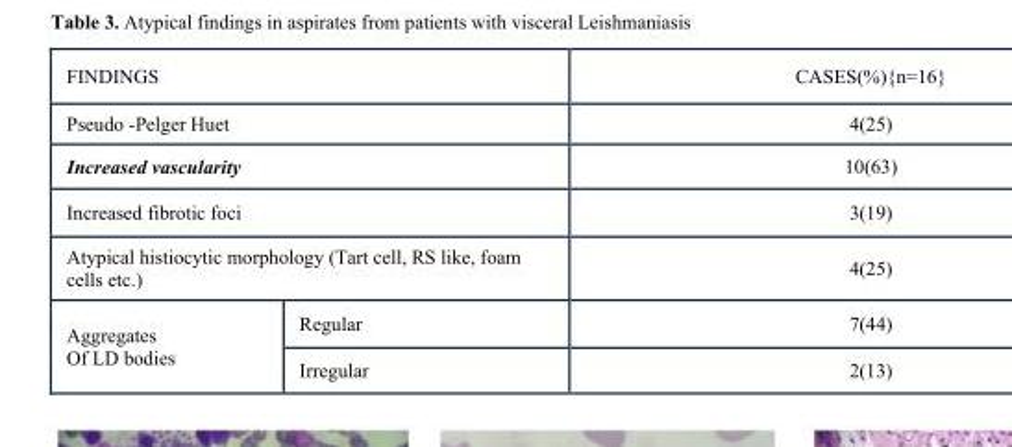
<table><thead><tr><td colspan="2">FINDINGS</td><td>CASES(%){n=16}</td></tr></thead><tbody><tr><td colspan="2">Pseudo -Pelger Huet</td><td>4(25)</td></tr><tr><td colspan="2">Increased vascularity</td><td>10(63)</td></tr><tr><td colspan="2">Increased fibrotic foci</td><td>3(19)</td></tr><tr><td colspan="2">Atypical histiocytic morphology (Tart cell, RS like, foam cells etc.)</td><td>4(25)</td></tr><tr><td rowspan="2">Aggregates Of LD bodies</td><td>Regular</td><td>7(44)</td></tr><tr><td>Irregular</td><td>2(13)</td></tr></tbody></table>